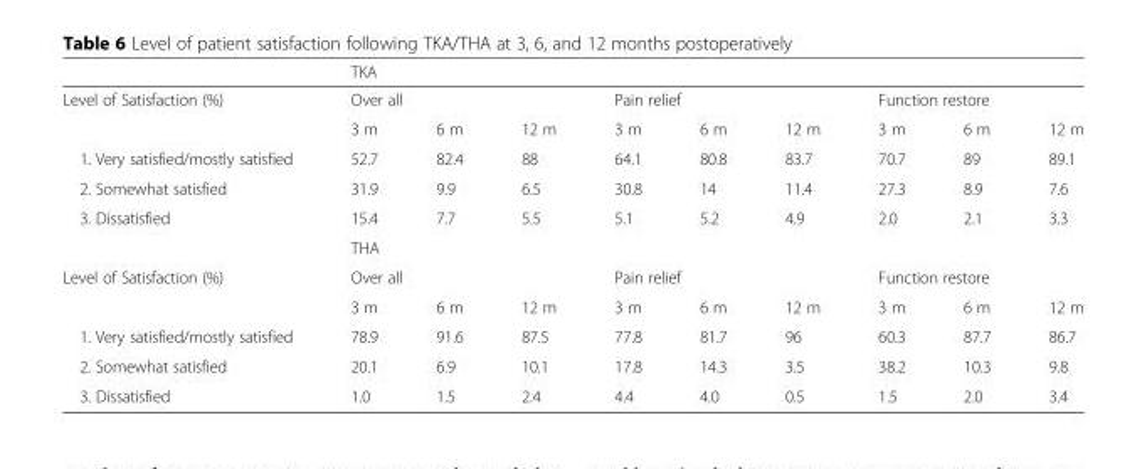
<table><thead><tr><td rowspan="3">Level of Satisfaction (%)</td><td colspan="9">TKA</td></tr><tr><td colspan="3">Over all</td><td colspan="3">Pain relief</td><td colspan="3">Function restore</td></tr><tr><td>3 m</td><td>6 m</td><td>12 m</td><td>3 m</td><td>6 m</td><td>12 m</td><td>3 m</td><td>6 m</td><td>12 m</td></tr></thead><tbody><tr><td>1. Very satisfied/mostly satisfied</td><td>52.7</td><td>82.4</td><td>88</td><td>64.1</td><td>80.8</td><td>83.7</td><td>70.7</td><td>89</td><td>89.1</td></tr><tr><td>2. Somewhat satisfied</td><td>31.9</td><td>9.9</td><td>6.5</td><td>30.8</td><td>14</td><td>11.4</td><td>27.3</td><td>8.9</td><td>7.6</td></tr><tr><td rowspan="2">3. Dissatisfied</td><td>15.4</td><td>7.7</td><td>5.5</td><td>5.1</td><td>5.2</td><td>4.9</td><td>2.0</td><td>2.1</td><td>3.3</td></tr><tr><td colspan="9">THA</td></tr><tr><td rowspan="2">Level of Satisfaction (%)</td><td colspan="3">Over all</td><td colspan="3">Pain relief</td><td colspan="3">Function restore</td></tr><tr><td>3 m</td><td>6 m</td><td>12 m</td><td>3 m</td><td>6 m</td><td>12 m</td><td>3 m</td><td>6 m</td><td>12 m</td></tr><tr><td>1. Very satisfied/mostly satisfied</td><td>78.9</td><td>91.6</td><td>87.5</td><td>77.8</td><td>81.7</td><td>96</td><td>60.3</td><td>87.7</td><td>86.7</td></tr><tr><td>2. Somewhat satisfied</td><td>20.1</td><td>6.9</td><td>10.1</td><td>17.8</td><td>14.3</td><td>3.5</td><td>38.2</td><td>10.3</td><td>9.8</td></tr><tr><td>3. Dissatisfied</td><td>1.0</td><td>1.5</td><td>2.4</td><td>4.4</td><td>4.0</td><td>0.5</td><td>1.5</td><td>2.0</td><td>3.4</td></tr></tbody></table>